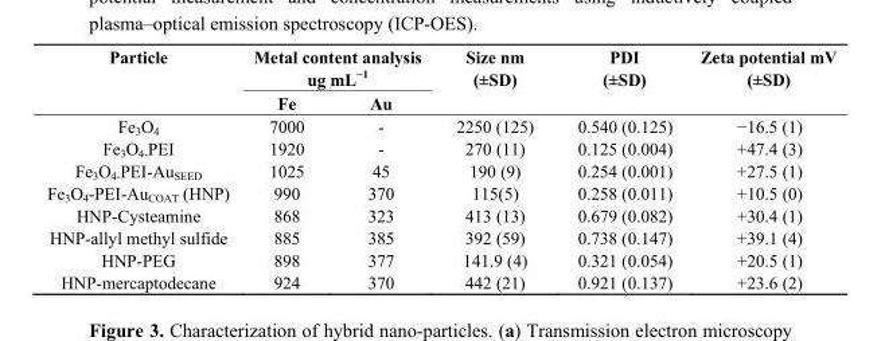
<table><thead><tr><td rowspan="2">Particle</td><td colspan="2">Metal content analysis ug mL<sup>−1</sup></td><td rowspan="2">Size nm (±SD)</td><td rowspan="2">PDI (±SD)</td><td rowspan="2">Zeta potential mV (±SD)</td></tr><tr><td>Fe</td><td>Au</td></tr></thead><tbody><tr><td>Fe<sub>3</sub>O<sub>4</sub></td><td>7000</td><td>-</td><td>2250 (125)</td><td>0.540 (0.125)</td><td>−16.5 (1)</td></tr><tr><td>Fe<sub>3</sub>O<sub>4-</sub>PEI</td><td>1920</td><td>-</td><td>270 (11)</td><td>0.125 (0.004)</td><td>+47.4 (3)</td></tr><tr><td>Fe<sub>3</sub>O<sub>4-</sub>PEI-Au<sub>SEED</sub></td><td>1025</td><td>45</td><td>190 (9)</td><td>0.254 (0.001)</td><td>+27.5 (1)</td></tr><tr><td>Fe<sub>3</sub>O<sub>4</sub>-PEI-Au<sub>COAT</sub> (HNP)</td><td>990</td><td>370</td><td>115(5)</td><td>0.258 (0.011)</td><td>+10.5 (0)</td></tr><tr><td>HNP-Cysteamine</td><td>868</td><td>323</td><td>413 (13)</td><td>0.679 (0.082)</td><td>+30.4 (1)</td></tr><tr><td>HNP-allyl methyl sulfide</td><td>885</td><td>385</td><td>392 (59)</td><td>0.738 (0.147)</td><td>+39.1 (4)</td></tr><tr><td>HNP-PEG</td><td>898</td><td>377</td><td>141.9 (4)</td><td>0.321 (0.054)</td><td>+20.5 (1)</td></tr><tr><td>HNP-mercaptodecane</td><td>924</td><td>370</td><td>442 (21)</td><td>0.921 (0.137)</td><td>+23.6 (2)</td></tr></tbody></table>